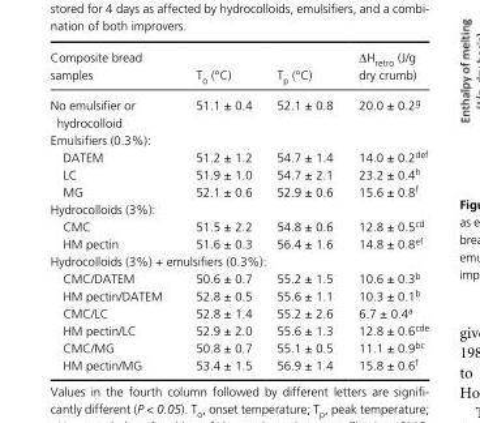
<table><thead><tr><td>Composite bread samples</td><td>T<sub>o</sub> (°C)</td><td>T<sub>p</sub> (°C)</td><td>∆H<sub>retro</sub> (J/g dry crumb)</td></tr></thead><tbody><tr><td>No emulsifier or hydrocolloid</td><td>51.1 ± 0.4</td><td>52.1 ± 0.8</td><td>20.0 ± 0.2<sup>g</sup></td></tr><tr><td colspan="4">Emulsifiers (0.3%):</td></tr><tr><td>DATEM</td><td>51.2 ± 1.2</td><td>54.7 ± 1.4</td><td>14.0 ± 0.2<sup>def</sup></td></tr><tr><td>LC</td><td>51.9 ± 1.0</td><td>54.7 ± 2.1</td><td>23.2 ± 0.4<sup>h</sup></td></tr><tr><td>MG</td><td>52.1 ± 0.6</td><td>52.9 ± 0.6</td><td>15.6 ± 0.8<sup>f</sup></td></tr><tr><td colspan="4">Hydrocolloids (3%):</td></tr><tr><td>CMC</td><td>51.5 ± 2.2</td><td>54.8 ± 0.6</td><td>12.8 ± 0.5<sup>cd</sup></td></tr><tr><td>HM pectin</td><td>51.6 ± 0.3</td><td>56.4 ± 1.6</td><td>14.8 ± 0.8<sup>ef</sup></td></tr><tr><td colspan="4">Hydrocolloids (3%) + emulsifiers (0.3%):</td></tr><tr><td>CMC/DATEM</td><td>50.6 ± 0.7</td><td>55.2 ± 1.5</td><td>10.6 ± 0.3<sup>b</sup></td></tr><tr><td>HM pectin/DATEM</td><td>52.8 ± 0.5</td><td>55.6 ± 1.1</td><td>10.3 ± 0.1<sup>b</sup></td></tr><tr><td>CMC/LC</td><td>52.8 ± 1.4</td><td>55.2 ± 2.6</td><td>6.7 ± 0.4<sup>a</sup></td></tr><tr><td>HM pectin/LC</td><td>52.9 ± 2.0</td><td>55.6 ± 1.3</td><td>12.8 ± 0.6<sup>cde</sup></td></tr><tr><td>CMC/MG</td><td>50.8 ± 0.7</td><td>55.1 ± 0.5</td><td>11.1 ± 0.9<sup>bc</sup></td></tr><tr><td>HM pectin/MG</td><td>53.4 ± 1.5</td><td>56.9 ± 1.4</td><td>15.8 ± 0.6<sup>f</sup></td></tr></tbody></table>